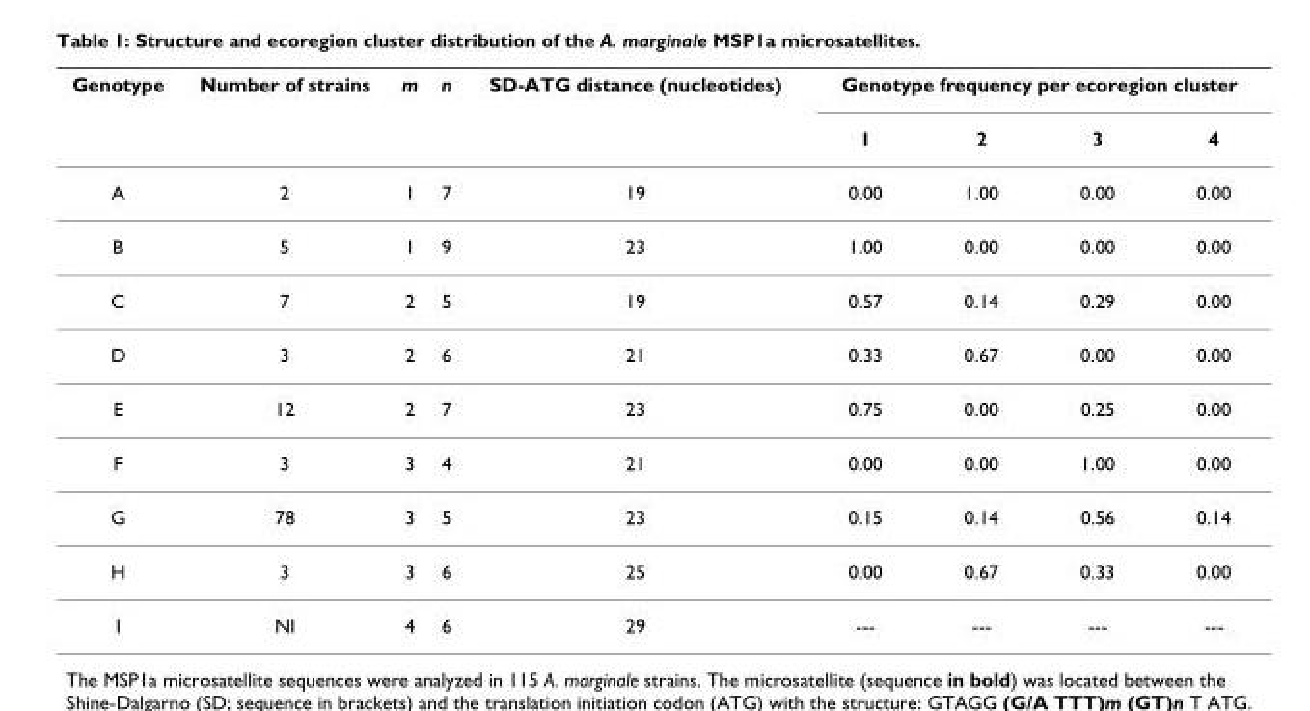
<table><thead><tr><td rowspan="2">Genotype</td><td rowspan="2">Number of strains</td><td rowspan="2">m</td><td rowspan="2">n</td><td rowspan="2">SD-ATG distance (nucleotides)</td><td colspan="4">Genotype frequency per ecoregion cluster</td></tr><tr><td>1</td><td>2</td><td>3</td><td>4</td></tr></thead><tbody><tr><td>A</td><td>2</td><td>1</td><td>7</td><td>19</td><td>0.00</td><td>1.00</td><td>0.00</td><td>0.00</td></tr><tr><td>B</td><td>5</td><td>1</td><td>9</td><td>23</td><td>1.00</td><td>0.00</td><td>0.00</td><td>0.00</td></tr><tr><td>C</td><td>7</td><td>2</td><td>5</td><td>19</td><td>0.57</td><td>0.14</td><td>0.29</td><td>0.00</td></tr><tr><td>D</td><td>3</td><td>2</td><td>6</td><td>21</td><td>0.33</td><td>0.67</td><td>0.00</td><td>0.00</td></tr><tr><td>E</td><td>12</td><td>2</td><td>7</td><td>23</td><td>0.75</td><td>0.00</td><td>0.25</td><td>0.00</td></tr><tr><td>F</td><td>3</td><td>3</td><td>4</td><td>21</td><td>0.00</td><td>0.00</td><td>1.00</td><td>0.00</td></tr><tr><td>G</td><td>78</td><td>3</td><td>5</td><td>23</td><td>0.15</td><td>0.14</td><td>0.56</td><td>0.14</td></tr><tr><td>H</td><td>3</td><td>3</td><td>6</td><td>25</td><td>0.00</td><td>0.67</td><td>0.33</td><td>0.00</td></tr><tr><td>I</td><td>NI</td><td>4</td><td>6</td><td>29</td><td>---</td><td>---</td><td>---</td><td>---</td></tr></tbody></table>